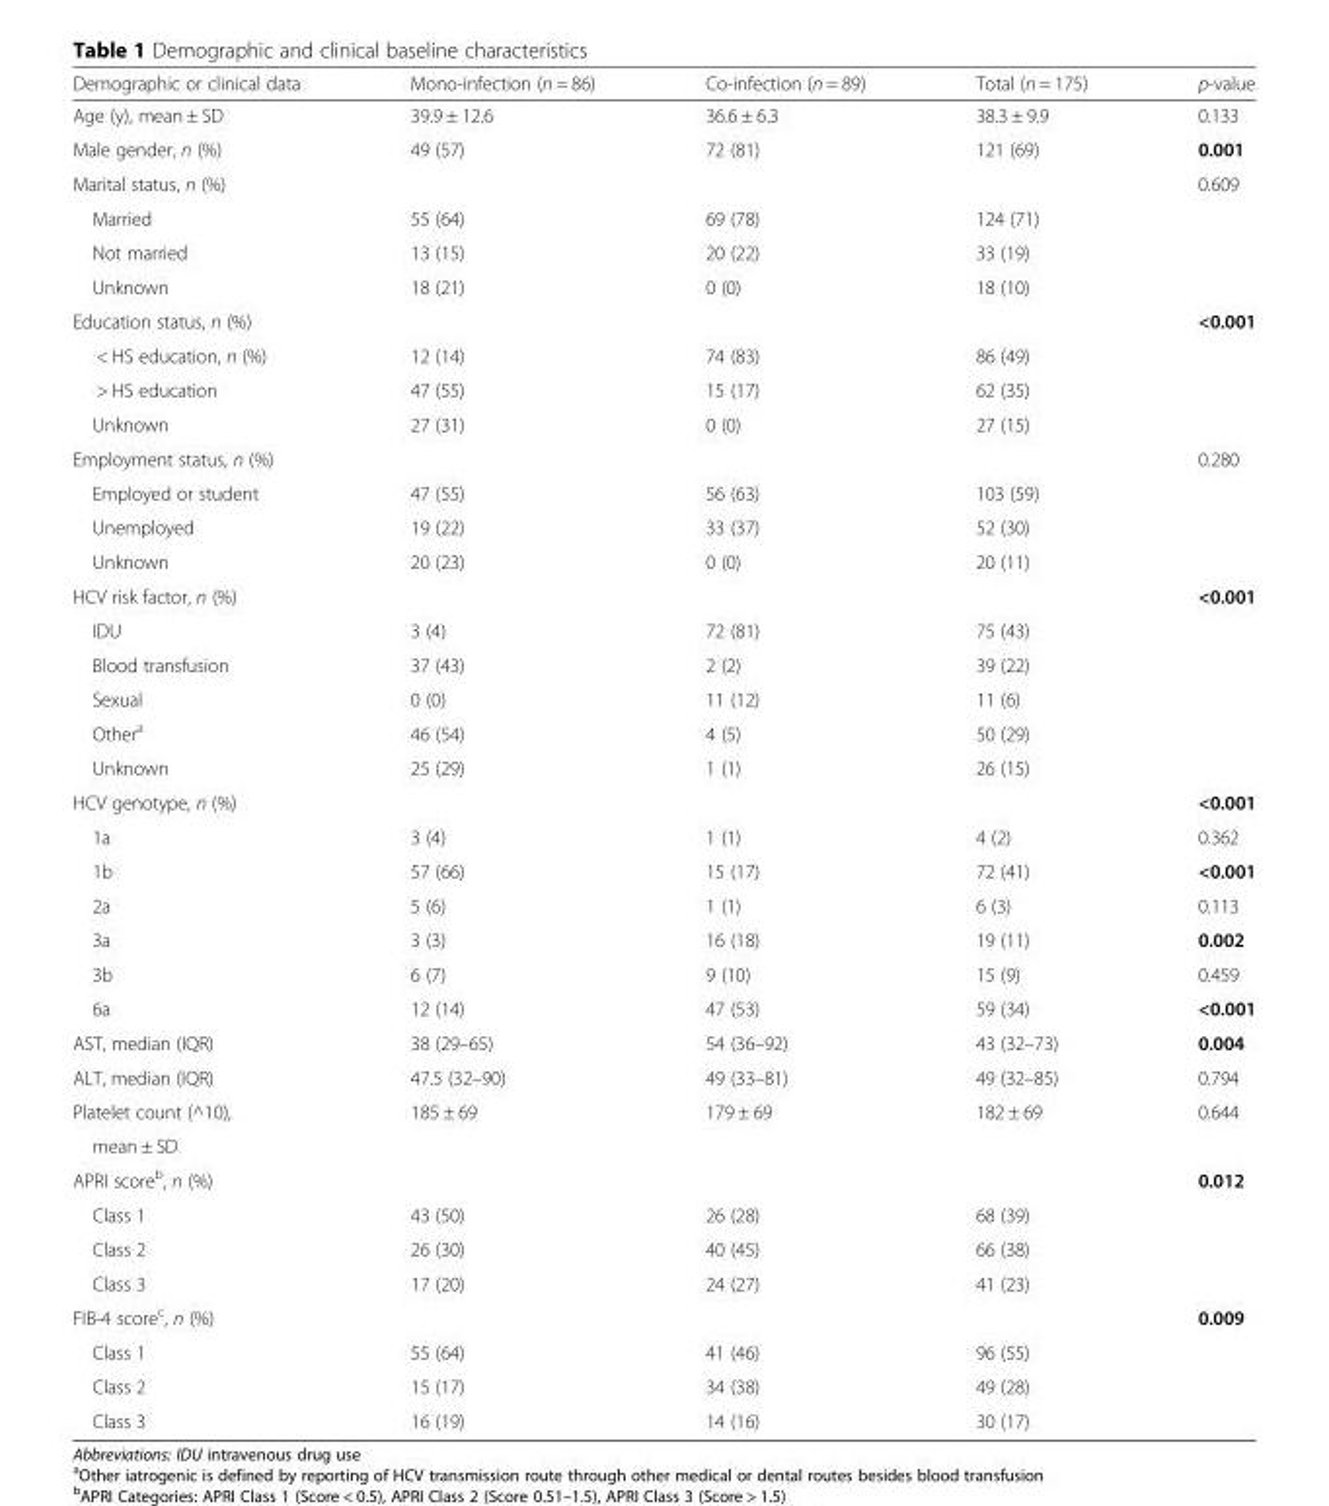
<table><thead><tr><td>Demographic or clinical data</td><td>Mono-infection (n = 86)</td><td>Co-infection (n = 89)</td><td>Total (n = 175)</td><td>p-value</td></tr></thead><tbody><tr><td>Age (y), mean ± SD</td><td>39.9 ± 12.6</td><td>36.6 ± 6.3</td><td>38.3 ± 9.9</td><td>0.133</td></tr><tr><td>Male gender, n (%)</td><td>49 (57)</td><td>72 (81)</td><td>121 (69)</td><td>0.001</td></tr><tr><td>Marital status, n (%)</td><td></td><td></td><td></td><td>0.609</td></tr><tr><td>Married</td><td>55 (64)</td><td>69 (78)</td><td>124 (71)</td><td></td></tr><tr><td>Not married</td><td>13 (15)</td><td>20 (22)</td><td>33 (19)</td><td></td></tr><tr><td>Unknown</td><td>18 (21)</td><td>0 (0)</td><td>18 (10)</td><td></td></tr><tr><td>Education status, n (%)</td><td></td><td></td><td></td><td>&lt;0.001</td></tr><tr><td>&lt; HS education, n (%)</td><td>12 (14)</td><td>74 (83)</td><td>86 (49)</td><td></td></tr><tr><td>&gt; HS education</td><td>47 (55)</td><td>15 (17)</td><td>62 (35)</td><td></td></tr><tr><td>Unknown</td><td>27 (31)</td><td>0 (0)</td><td>27 (15)</td><td></td></tr><tr><td>Employment status, n (%)</td><td></td><td></td><td></td><td>0.280</td></tr><tr><td>Employed or student</td><td>47 (55)</td><td>56 (63)</td><td>103 (59)</td><td></td></tr><tr><td>Unemployed</td><td>19 (22)</td><td>33 (37)</td><td>52 (30)</td><td></td></tr><tr><td>Unknown</td><td>20 (23)</td><td>0 (0)</td><td>20 (11)</td><td></td></tr><tr><td>HCV risk factor, n (%)</td><td></td><td></td><td></td><td>&lt;0.001</td></tr><tr><td>IDU</td><td>3 (4)</td><td>72 (81)</td><td>75 (43)</td><td></td></tr><tr><td>Blood transfusion</td><td>37 (43)</td><td>2 (2)</td><td>39 (22)</td><td></td></tr><tr><td>Sexual</td><td>0 (0)</td><td>11 (12)</td><td>11 (6)</td><td></td></tr><tr><td>Other<sup>a</sup></td><td>46 (54)</td><td>4 (5)</td><td>50 (29)</td><td></td></tr><tr><td>Unknown</td><td>25 (29)</td><td>1 (1)</td><td>26 (15)</td><td></td></tr><tr><td>HCV genotype, n (%)</td><td></td><td></td><td></td><td>&lt;0.001</td></tr><tr><td>1a</td><td>3 (4)</td><td>1 (1)</td><td>4 (2)</td><td>0.362</td></tr><tr><td>1b</td><td>57 (66)</td><td>15 (17)</td><td>72 (41)</td><td>&lt;0.001</td></tr><tr><td>2a</td><td>5 (6)</td><td>1 (1)</td><td>6 (3)</td><td>0.113</td></tr><tr><td>3a</td><td>3 (3)</td><td>16 (18)</td><td>19 (11)</td><td>0.002</td></tr><tr><td>3b</td><td>6 (7)</td><td>9 (10)</td><td>15 (9)</td><td>0.459</td></tr><tr><td>6a</td><td>12 (14)</td><td>47 (53)</td><td>59 (34)</td><td>&lt;0.001</td></tr><tr><td>AST, median (IQR)</td><td>38 (29–65)</td><td>54 (36–92)</td><td>43 (32–73)</td><td>0.004</td></tr><tr><td>ALT, median (IQR)</td><td>47.5 (32–90)</td><td>49 (33–81)</td><td>49 (32–85)</td><td>0.794</td></tr><tr><td>Platelet count (^10),</td><td rowspan="2">185 ± 69</td><td rowspan="2">179 ± 69</td><td rowspan="2">182 ± 69</td><td rowspan="2">0.644</td></tr><tr><td>mean ± SD</td></tr><tr><td>APRI score<sup>b</sup>, n (%)</td><td></td><td></td><td></td><td>0.012</td></tr><tr><td>Class 1</td><td>43 (50)</td><td>26 (28)</td><td>68 (39)</td><td></td></tr><tr><td>Class 2</td><td>26 (30)</td><td>40 (45)</td><td>66 (38)</td><td></td></tr><tr><td>Class 3</td><td>17 (20)</td><td>24 (27)</td><td>41 (23)</td><td></td></tr><tr><td>FIB-4 score<sup>c</sup>, n (%)</td><td></td><td></td><td></td><td>0.009</td></tr><tr><td>Class 1</td><td>55 (64)</td><td>41 (46)</td><td>96 (55)</td><td></td></tr><tr><td>Class 2</td><td>15 (17)</td><td>34 (38)</td><td>49 (28)</td><td></td></tr><tr><td>Class 3</td><td>16 (19)</td><td>14 (16)</td><td>30 (17)</td><td></td></tr></tbody></table>